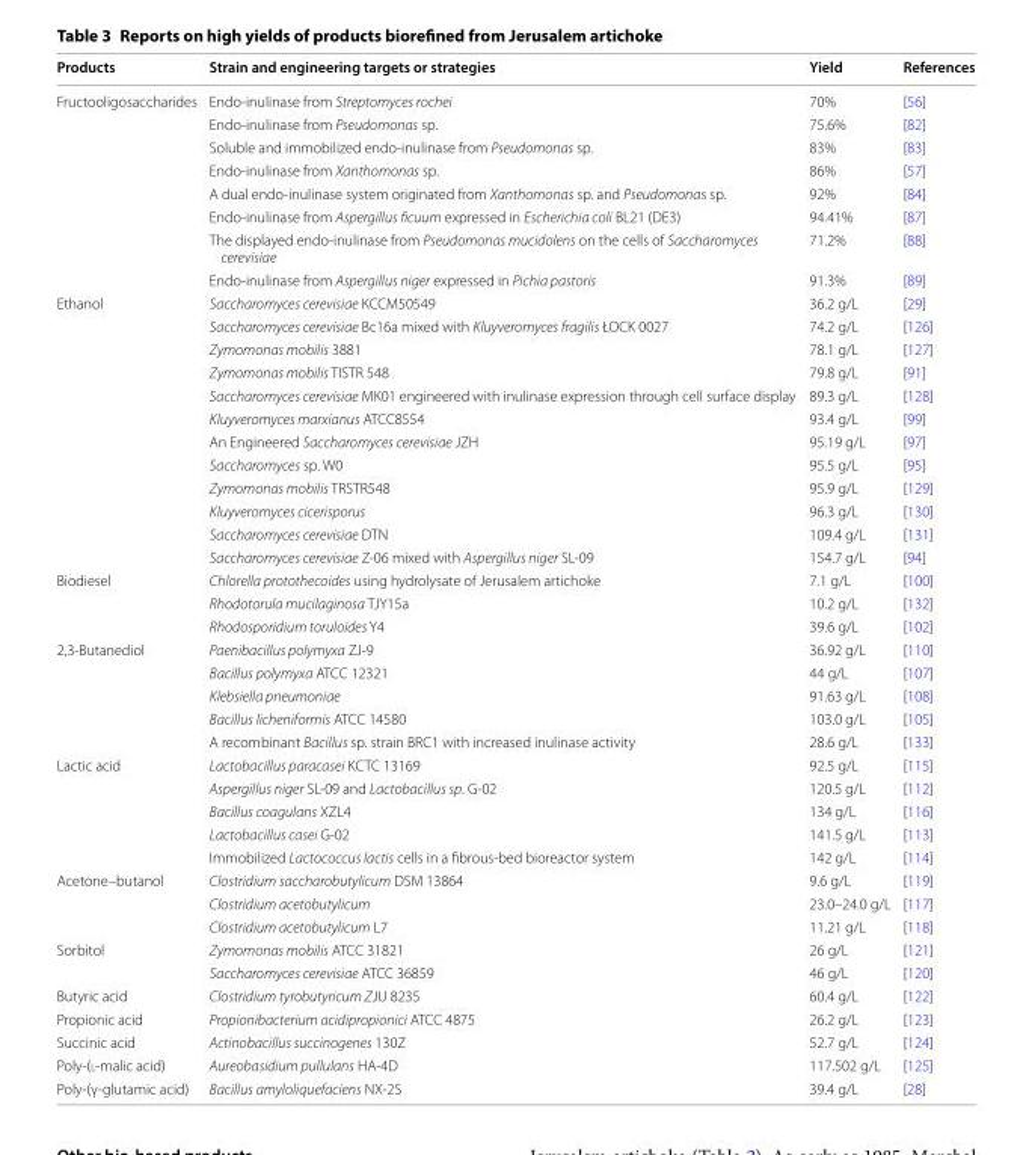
<table><thead><tr><td>Products</td><td>Strain and engineering targets or strategies</td><td>Yield</td><td>References</td></tr></thead><tbody><tr><td rowspan="8">Fructooligosaccharides</td><td>Endo-inulinase from Streptomyces rochei</td><td>70%</td><td>[56]</td></tr><tr><td>Endo-inulinase from Pseudomonas sp.</td><td>75.6%</td><td>[82]</td></tr><tr><td>Soluble and immobilized endo-inulinase from Pseudomonas sp.</td><td>83%</td><td>[83]</td></tr><tr><td>Endo-inulinase from Xanthomonas sp.</td><td>86%</td><td>[57]</td></tr><tr><td>A dual endo-inulinase system originated from Xanthomonas sp. and Pseudomonas sp.</td><td>92%</td><td>[84]</td></tr><tr><td>Endo-inulinase from Aspergillus ficuum expressed in Escherichia coli BL21 (DE3)</td><td>94.41%</td><td>[87]</td></tr><tr><td>The displayed endo-inulinase from Pseudomonas mucidolens on the cells of Saccharomyces cerevisiae</td><td>71.2%</td><td>[88]</td></tr><tr><td>Endo-inulinase from Aspergillus niger expressed in Pichia pastoris</td><td>91.3%</td><td>[89]</td></tr><tr><td rowspan="12">Ethanol</td><td>Saccharomyces cerevisiae KCCM50549</td><td>36.2 g/L</td><td>[29]</td></tr><tr><td>Saccharomyces cerevisiae Bc16a mixed with Kluyveromyces fragilis ŁOCK 0027</td><td>74.2 g/L</td><td>[126]</td></tr><tr><td>Zymomonas mobilis 3881</td><td>78.1 g/L</td><td>[127]</td></tr><tr><td>Zymomonas mobilis TISTR 548</td><td>79.8 g/L</td><td>[91]</td></tr><tr><td>Saccharomyces cerevisiae MK01 engineered with inulinase expression through cell surface display</td><td>89.3 g/L</td><td>[128]</td></tr><tr><td>Kluyveromyces marxianus ATCC8554</td><td>93.4 g/L</td><td>[99]</td></tr><tr><td>An Engineered Saccharomyces cerevisiae JZH</td><td>95.19 g/L</td><td>[97]</td></tr><tr><td>Saccharomyces sp. W0</td><td>95.5 g/L</td><td>[95]</td></tr><tr><td>Zymomonas mobilis TRSTR548</td><td>95.9 g/L</td><td>[129]</td></tr><tr><td>Kluyveromyces cicerisporus</td><td>96.3 g/L</td><td>[130]</td></tr><tr><td>Saccharomyces cerevisiae DTN</td><td>109.4 g/L</td><td>[131]</td></tr><tr><td>Saccharomyces cerevisiae Z-06 mixed with Aspergillus niger SL-09</td><td>154.7 g/L</td><td>[94]</td></tr><tr><td rowspan="3">Biodiesel</td><td>Chlorella protothecoides using hydrolysate of Jerusalem artichoke</td><td>7.1 g/L</td><td>[100]</td></tr><tr><td>Rhodotorula mucilaginosa TJY15a</td><td>10.2 g/L</td><td>[132]</td></tr><tr><td>Rhodosporidium toruloides Y4</td><td>39.6 g/L</td><td>[102]</td></tr><tr><td rowspan="5">2,3-Butanediol</td><td>Paenibacillus polymyxa ZJ-9</td><td>36.92 g/L</td><td>[110]</td></tr><tr><td>Bacillus polymyxa ATCC 12321</td><td>44 g/L</td><td>[107]</td></tr><tr><td>Klebsiella pneumoniae</td><td>91.63 g/L</td><td>[108]</td></tr><tr><td>Bacillus licheniformis ATCC 14580</td><td>103.0 g/L</td><td>[105]</td></tr><tr><td>A recombinant Bacillus sp. strain BRC1 with increased inulinase activity</td><td>28.6 g/L</td><td>[133]</td></tr><tr><td rowspan="5">Lactic acid</td><td>Lactobacillus paracasei KCTC 13169</td><td>92.5 g/L</td><td>[115]</td></tr><tr><td>Aspergillus niger SL-09 and Lactobacillus sp. G-02</td><td>120.5 g/L</td><td>[112]</td></tr><tr><td>Bacillus coagulans XZL4</td><td>134 g/L</td><td>[116]</td></tr><tr><td>Lactobacillus casei G-02</td><td>141.5 g/L</td><td>[113]</td></tr><tr><td>Immobilized Lactococcus lactis cells in a fibrous-bed bioreactor system</td><td>142 g/L</td><td>[114]</td></tr><tr><td rowspan="3">Acetone–butanol</td><td>Clostridium saccharobutylicum DSM 13864</td><td>9.6 g/L</td><td>[119]</td></tr><tr><td>Clostridium acetobutylicum</td><td>23.0–24.0 g/L</td><td>[117]</td></tr><tr><td>Clostridium acetobutylicum L7</td><td>11.21 g/L</td><td>[118]</td></tr><tr><td rowspan="2">Sorbitol</td><td>Zymomonas mobilis ATCC 31821</td><td>26 g/L</td><td>[121]</td></tr><tr><td>Saccharomyces cerevisiae ATCC 36859</td><td>46 g/L</td><td>[120]</td></tr><tr><td>Butyric acid</td><td>Clostridium tyrobutyricum ZJU 8235</td><td>60.4 g/L</td><td>[122]</td></tr><tr><td>Propionic acid</td><td>Propionibacterium acidipropionici ATCC 4875</td><td>26.2 g/L</td><td>[123]</td></tr><tr><td>Succinic acid</td><td>Actinobacillus succinogenes 130Z</td><td>52.7 g/L</td><td>[124]</td></tr><tr><td>Poly-(l-malic acid)</td><td>Aureobasidium pullulans HA-4D</td><td>117.502 g/L</td><td>[125]</td></tr><tr><td>Poly-(γ-glutamic acid)</td><td>Bacillus amyloliquefaciens NX-2S</td><td>39.4 g/L</td><td>[28]</td></tr></tbody></table>